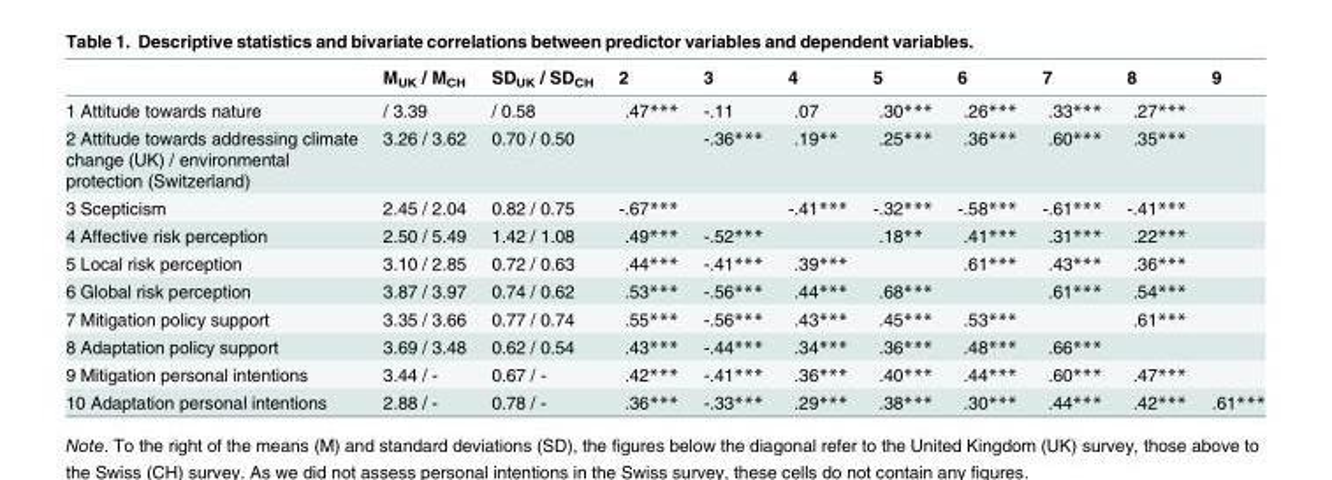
<table><thead><tr><td></td><td>M<sub>UK</sub> / M<sub>CH</sub></td><td>SD<sub>UK</sub> / SD<sub>CH</sub></td><td>2</td><td>3</td><td>4</td><td>5</td><td>6</td><td>7</td><td>8</td><td>9</td></tr></thead><tbody><tr><td>1 Attitude towards nature</td><td>/ 3.39</td><td>/ 0.58</td><td>.47***</td><td>-.11</td><td>.07</td><td>.30***</td><td>.26***</td><td>.33***</td><td>.27***</td><td></td></tr><tr><td>2 Attitude towards addressing climate change (UK) / environmental protection (Switzerland)</td><td>3.26 / 3.62</td><td>0.70 / 0.50</td><td></td><td>-.36***</td><td>.19**</td><td>.25***</td><td>.36***</td><td>.60***</td><td>.35***</td><td></td></tr><tr><td>3 Scepticism</td><td>2.45 / 2.04</td><td>0.82 / 0.75</td><td>-.67***</td><td></td><td>-.41***</td><td>-.32***</td><td>-.58***</td><td>-.61***</td><td>-.41***</td><td></td></tr><tr><td>4 Affective risk perception</td><td>2.50 / 5.49</td><td>1.42 / 1.08</td><td>.49***</td><td>-.52***</td><td></td><td>.18**</td><td>.41***</td><td>.31***</td><td>.22***</td><td></td></tr><tr><td>5 Local risk perception</td><td>3.10 / 2.85</td><td>0.72 / 0.63</td><td>.44***</td><td>-.41***</td><td>.39***</td><td></td><td>.61***</td><td>.43***</td><td>.36***</td><td></td></tr><tr><td>6 Global risk perception</td><td>3.87 / 3.97</td><td>0.74 / 0.62</td><td>.53***</td><td>-.56***</td><td>.44***</td><td>.68***</td><td></td><td>.61***</td><td>.54***</td><td></td></tr><tr><td>7 Mitigation policy support</td><td>3.35 / 3.66</td><td>0.77 / 0.74</td><td>.55***</td><td>-.56***</td><td>.43***</td><td>.45***</td><td>.53***</td><td></td><td>.61***</td><td></td></tr><tr><td>8 Adaptation policy support</td><td>3.69 / 3.48</td><td>0.62 / 0.54</td><td>.43***</td><td>-.44***</td><td>.34***</td><td>.36***</td><td>.48***</td><td>.66***</td><td></td><td></td></tr><tr><td>9 Mitigation personal intentions</td><td>3.44 / -</td><td>0.67 / -</td><td>.42***</td><td>-.41***</td><td>.36***</td><td>.40***</td><td>.44***</td><td>.60***</td><td>.47***</td><td></td></tr><tr><td>10 Adaptation personal intentions</td><td>2.88 / -</td><td>0.78 / -</td><td>.36***</td><td>-.33***</td><td>.29***</td><td>.38***</td><td>.30***</td><td>.44***</td><td>.42***</td><td>.61***</td></tr></tbody></table>